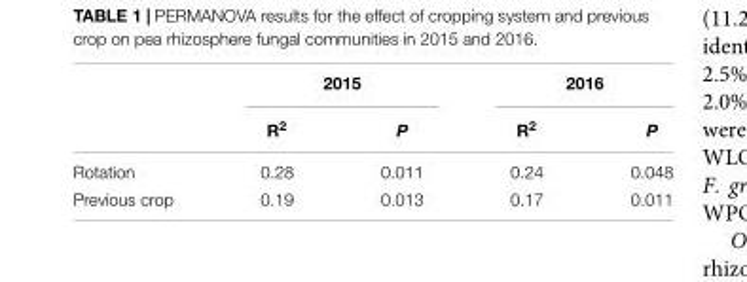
<table><thead><tr><td rowspan="2"></td><td colspan="2">2015</td><td colspan="2">2016</td></tr><tr><td>R<sup>2</sup></td><td>P</td><td>R<sup>2</sup></td><td>P</td></tr></thead><tbody><tr><td>Rotation</td><td>0.28</td><td>0.011</td><td>0.24</td><td>0.048</td></tr><tr><td>Previous crop</td><td>0.19</td><td>0.013</td><td>0.17</td><td>0.011</td></tr></tbody></table>